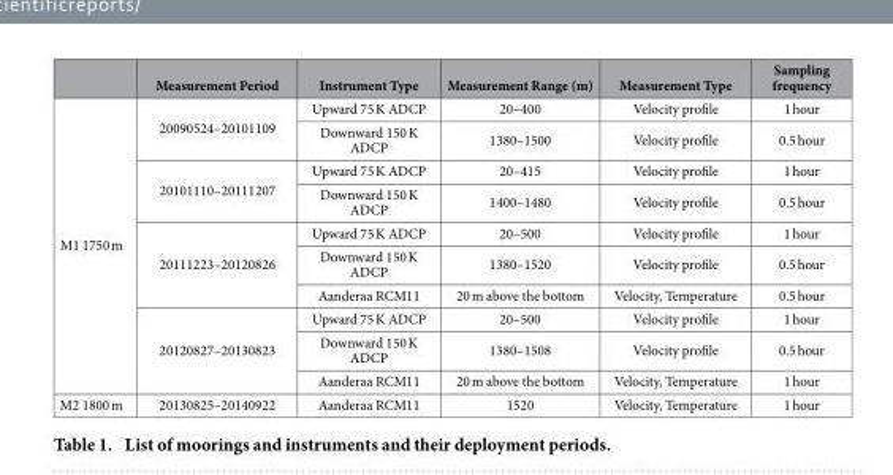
<table><thead><tr><td></td><td>Measurement Period</td><td>Instrument Type</td><td>Measurement Range (m)</td><td>Measurement Type</td><td>Sampling frequency</td></tr></thead><tbody><tr><td rowspan="10">M1 1750 m</td><td rowspan="2">20090524–20101109</td><td>Upward 75 K ADCP</td><td>20–400</td><td>Velocity profile</td><td>1 hour</td></tr><tr><td>Downward 150 K ADCP</td><td>1380–1500</td><td>Velocity profile</td><td>0.5 hour</td></tr><tr><td rowspan="2">20101110–20111207</td><td>Upward 75 K ADCP</td><td>20–415</td><td>Velocity profile</td><td>1 hour</td></tr><tr><td>Downward 150 K ADCP</td><td>1400–1480</td><td>Velocity profile</td><td>0.5 hour</td></tr><tr><td rowspan="3">20111223–20120826</td><td>Upward 75 K ADCP</td><td>20–500</td><td>Velocity profile</td><td>1 hour</td></tr><tr><td>Downward 150 K ADCP</td><td>1380–1520</td><td>Velocity profile</td><td>0.5 hour</td></tr><tr><td>Aanderaa RCM11</td><td>20 m above the bottom</td><td>Velocity, Temperature</td><td>0.5 hour</td></tr><tr><td rowspan="3">20120827–20130823</td><td>Upward 75 K ADCP</td><td>20–500</td><td>Velocity profile</td><td>1 hour</td></tr><tr><td>Downward 150 K ADCP</td><td>1380–1508</td><td>Velocity profile</td><td>0.5 hour</td></tr><tr><td>Aanderaa RCM11</td><td>20 m above the bottom</td><td>Velocity, Temperature</td><td>1 hour</td></tr><tr><td>M2 1800 m</td><td>20130825–20140922</td><td>Aanderaa RCM11</td><td>1520</td><td>Velocity, Temperature</td><td>1 hour</td></tr></tbody></table>